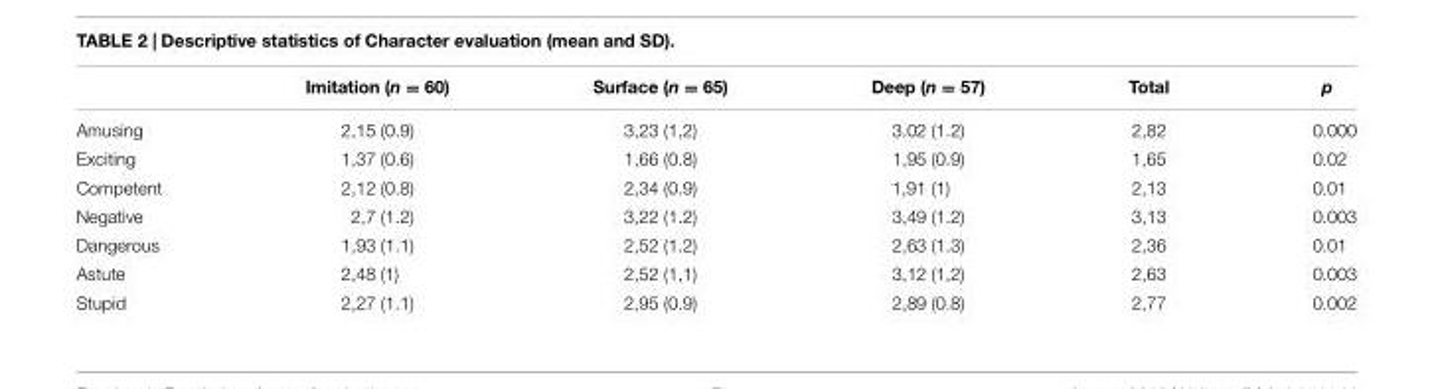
<table><thead><tr><td></td><td>Imitation (n = 60)</td><td>Surface (n = 65)</td><td>Deep (n = 57)</td><td>Total</td><td>p</td></tr></thead><tbody><tr><td>Amusing</td><td>2,15 (0.9)</td><td>3,23 (1,2)</td><td>3.02 (1.2)</td><td>2,82</td><td>0.000</td></tr><tr><td>Exciting</td><td>1,37 (0.6)</td><td>1,66 (0.8)</td><td>1,95 (0.9)</td><td>1,65</td><td>0.02</td></tr><tr><td>Competent</td><td>2,12 (0.8)</td><td>2,34 (0.9)</td><td>1,91 (1)</td><td>2,13</td><td>0.01</td></tr><tr><td>Negative</td><td>2,7 (1.2)</td><td>3,22 (1.2)</td><td>3,49 (1.2)</td><td>3,13</td><td>0.003</td></tr><tr><td>Dangerous</td><td>1,93 (1.1)</td><td>2,52 (1.2)</td><td>2,63 (1.3)</td><td>2,36</td><td>0.01</td></tr><tr><td>Astute</td><td>2,48 (1)</td><td>2,52 (1,1)</td><td>3,12 (1,2)</td><td>2,63</td><td>0.003</td></tr><tr><td>Stupid</td><td>2,27 (1.1)</td><td>2,95 (0.9)</td><td>2,89 (0.8)</td><td>2,77</td><td>0.002</td></tr></tbody></table>